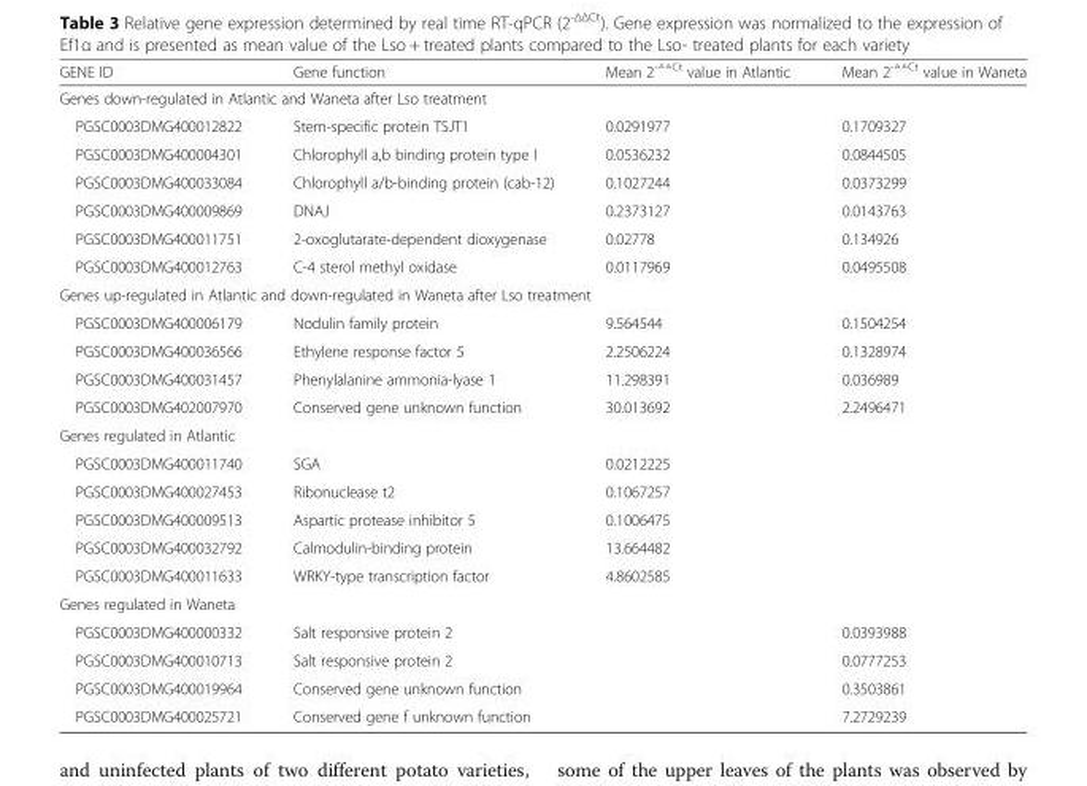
<table><thead><tr><td>GENE ID</td><td>Gene function</td><td>Mean 2<sup>-△△Ct</sup> value in Atlantic</td><td>Mean 2<sup>-△△Ct</sup> value in Waneta</td></tr></thead><tbody><tr><td colspan="4">Genes down-regulated in Atlantic and Waneta after Lso treatment</td></tr><tr><td>PGSC0003DMG400012822</td><td>Stem-specific protein TSJT1</td><td>0.0291977</td><td>0.1709327</td></tr><tr><td>PGSC0003DMG400004301</td><td>Chlorophyll a,b binding protein type I</td><td>0.0536232</td><td>0.0844505</td></tr><tr><td>PGSC0003DMG400033084</td><td>Chlorophyll a/b-binding protein (cab-12)</td><td>0.1027244</td><td>0.0373299</td></tr><tr><td>PGSC0003DMG400009869</td><td>DNAJ</td><td>0.2373127</td><td>0.0143763</td></tr><tr><td>PGSC0003DMG400011751</td><td>2-oxoglutarate-dependent dioxygenase</td><td>0.02778</td><td>0.134926</td></tr><tr><td>PGSC0003DMG400012763</td><td>C-4 sterol methyl oxidase</td><td>0.0117969</td><td>0.0495508</td></tr><tr><td colspan="4">Genes up-regulated in Atlantic and down-regulated in Waneta after Lso treatment</td></tr><tr><td>PGSC0003DMG400006179</td><td>Nodulin family protein</td><td>9.564544</td><td>0.1504254</td></tr><tr><td>PGSC0003DMG400036566</td><td>Ethylene response factor 5</td><td>2.2506224</td><td>0.1328974</td></tr><tr><td>PGSC0003DMG400031457</td><td>Phenylalanine ammonia-lyase 1</td><td>11.298391</td><td>0.036989</td></tr><tr><td>PGSC0003DMG402007970</td><td>Conserved gene unknown function</td><td>30.013692</td><td>2.2496471</td></tr><tr><td colspan="4">Genes regulated in Atlantic</td></tr><tr><td>PGSC0003DMG400011740</td><td>SGA</td><td>0.0212225</td><td></td></tr><tr><td>PGSC0003DMG400027453</td><td>Ribonuclease t2</td><td>0.1067257</td><td></td></tr><tr><td>PGSC0003DMG400009513</td><td>Aspartic protease inhibitor 5</td><td>0.1006475</td><td></td></tr><tr><td>PGSC0003DMG400032792</td><td>Calmodulin-binding protein</td><td>13.664482</td><td></td></tr><tr><td>PGSC0003DMG400011633</td><td>WRKY-type transcription factor</td><td>4.8602585</td><td></td></tr><tr><td colspan="4">Genes regulated in Waneta</td></tr><tr><td>PGSC0003DMG400000332</td><td>Salt responsive protein 2</td><td></td><td>0.0393988</td></tr><tr><td>PGSC0003DMG400010713</td><td>Salt responsive protein 2</td><td></td><td>0.0777253</td></tr><tr><td>PGSC0003DMG400019964</td><td>Conserved gene unknown function</td><td></td><td>0.3503861</td></tr><tr><td>PGSC0003DMG400025721</td><td>Conserved gene f unknown function</td><td></td><td>7.2729239</td></tr></tbody></table>